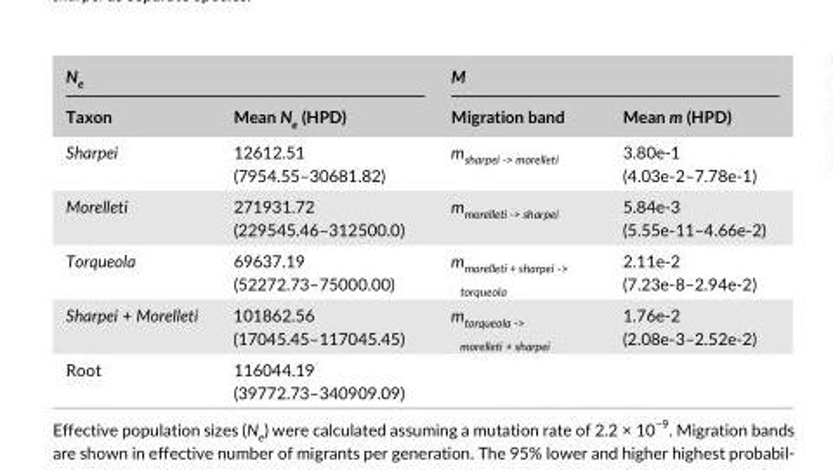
<table><thead><tr><td colspan="2">N<sub>e</sub></td><td colspan="2">M</td></tr><tr><td>Taxon</td><td>Mean N<sub>e</sub> (HPD)</td><td>Migration band</td><td>Mean m (HPD)</td></tr></thead><tbody><tr><td>Sharpei</td><td>12612.51 (7954.55–30681.82)</td><td>m<sub>sharpei -&gt; morelleti</sub></td><td>3.80e- 1 (4.03e- 2–7.78e- 1)</td></tr><tr><td>Morelleti</td><td>271931.72 (229545.46–312500.0)</td><td>m<sub>morelleti -&gt; sharpei</sub></td><td>5.84e- 3 (5.55e- 11–4.66e- 2)</td></tr><tr><td>Torqueola</td><td>69637.19 (52272.73–75000.00)</td><td>m<sub>morelleti + sharpei -&gt; torqueola</sub></td><td>2.11e- 2 (7.23e- 8–2.94e- 2)</td></tr><tr><td>Sharpei + Morelleti</td><td>101862.56 (17045.45–117045.45)</td><td>m<sub>torqueola -&gt; morelleti + sharpei</sub></td><td>1.76e- 2 (2.08e- 3–2.52e- 2)</td></tr><tr><td>Root</td><td>116044.19 (39772.73–340909.09)</td><td></td><td></td></tr></tbody></table>